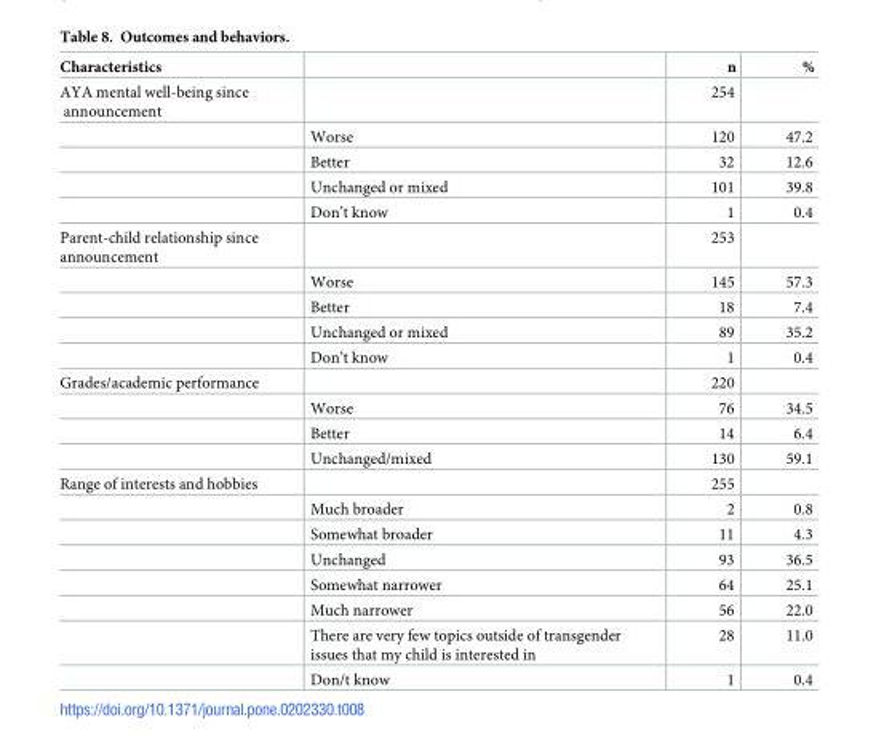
<table><thead><tr><td>Characteristics</td><td></td><td>n</td><td>%</td></tr></thead><tbody><tr><td rowspan="5">AYA mental well-being since announcement</td><td></td><td>254</td><td></td></tr><tr><td>Worse</td><td>120</td><td>47.2</td></tr><tr><td>Better</td><td>32</td><td>12.6</td></tr><tr><td>Unchanged or mixed</td><td>101</td><td>39.8</td></tr><tr><td>Don’t know</td><td>1</td><td>0.4</td></tr><tr><td rowspan="5">Parent-child relationship since announcement</td><td></td><td>253</td><td></td></tr><tr><td>Worse</td><td>145</td><td>57.3</td></tr><tr><td>Better</td><td>18</td><td>7.4</td></tr><tr><td>Unchanged or mixed</td><td>89</td><td>35.2</td></tr><tr><td>Don’t know</td><td>1</td><td>0.4</td></tr><tr><td rowspan="4">Grades/academic performance</td><td></td><td>220</td><td></td></tr><tr><td>Worse</td><td>76</td><td>34.5</td></tr><tr><td>Better</td><td>14</td><td>6.4</td></tr><tr><td>Unchanged/mixed</td><td>130</td><td>59.1</td></tr><tr><td rowspan="8">Range of interests and hobbies</td><td></td><td>255</td><td></td></tr><tr><td>Much broader</td><td>2</td><td>0.8</td></tr><tr><td>Somewhat broader</td><td>11</td><td>4.3</td></tr><tr><td>Unchanged</td><td>93</td><td>36.5</td></tr><tr><td>Somewhat narrower</td><td>64</td><td>25.1</td></tr><tr><td>Much narrower</td><td>56</td><td>22.0</td></tr><tr><td>There are very few topics outside of transgender issues that my child is interested in</td><td>28</td><td>11.0</td></tr><tr><td>Don/t know</td><td>1</td><td>0.4</td></tr></tbody></table>